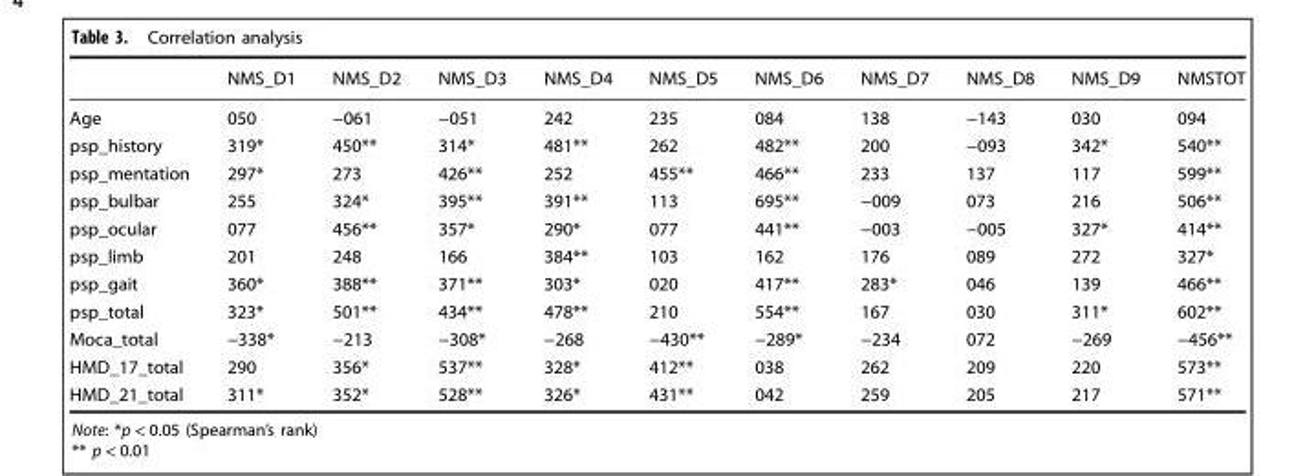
<table><thead><tr><td></td><td>NMS_D1</td><td>NMS_D2</td><td>NMS_D3</td><td>NMS_D4</td><td>NMS_D5</td><td>NMS_D6</td><td>NMS_D7</td><td>NMS_D8</td><td>NMS_D9</td><td>NMSTOT</td></tr></thead><tbody><tr><td>Age</td><td>050</td><td>−061</td><td>−051</td><td>242</td><td>235</td><td>084</td><td>138</td><td>−143</td><td>030</td><td>094</td></tr><tr><td>psp_history</td><td>319*</td><td>450**</td><td>314*</td><td>481**</td><td>262</td><td>482**</td><td>200</td><td>−093</td><td>342*</td><td>540**</td></tr><tr><td>psp_mentation</td><td>297*</td><td>273</td><td>426**</td><td>252</td><td>455**</td><td>466**</td><td>233</td><td>137</td><td>117</td><td>599**</td></tr><tr><td>psp_bulbar</td><td>255</td><td>324*</td><td>395**</td><td>391**</td><td>113</td><td>695**</td><td>−009</td><td>073</td><td>216</td><td>506**</td></tr><tr><td>psp_ocular</td><td>077</td><td>456**</td><td>357*</td><td>290*</td><td>077</td><td>441**</td><td>−003</td><td>−005</td><td>327*</td><td>414**</td></tr><tr><td>psp_limb</td><td>201</td><td>248</td><td>166</td><td>384**</td><td>103</td><td>162</td><td>176</td><td>089</td><td>272</td><td>327*</td></tr><tr><td>psp_gait</td><td>360*</td><td>388**</td><td>371**</td><td>303*</td><td>020</td><td>417**</td><td>283*</td><td>046</td><td>139</td><td>466**</td></tr><tr><td>psp_total</td><td>323*</td><td>501**</td><td>434**</td><td>478**</td><td>210</td><td>554**</td><td>167</td><td>030</td><td>311*</td><td>602**</td></tr><tr><td>Moca_total</td><td>−338*</td><td>−213</td><td>−308*</td><td>−268</td><td>−430**</td><td>−289*</td><td>−234</td><td>072</td><td>−269</td><td>−456**</td></tr><tr><td>HMD_17_total</td><td>290</td><td>356*</td><td>537**</td><td>328*</td><td>412**</td><td>038</td><td>262</td><td>209</td><td>220</td><td>573**</td></tr><tr><td>HMD_21_total</td><td>311*</td><td>352*</td><td>528**</td><td>326*</td><td>431**</td><td>042</td><td>259</td><td>205</td><td>217</td><td>571**</td></tr></tbody></table>